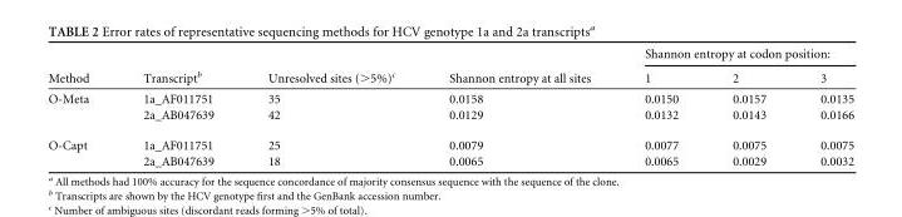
<table><thead><tr><td rowspan="2">Method</td><td rowspan="2">Transcript<sup>b</sup></td><td rowspan="2">Unresolved sites (&gt;5%)<sup>c</sup></td><td rowspan="2">Shannon entropy at all sites</td><td colspan="3">Shannon entropy at codon position:</td></tr><tr><td>1</td><td>2</td><td>3</td></tr></thead><tbody><tr><td rowspan="2">O-Meta</td><td>1a_AF011751</td><td>35</td><td>0.0158</td><td>0.0150</td><td>0.0157</td><td>0.0135</td></tr><tr><td>2a_AB047639</td><td>42</td><td>0.0129</td><td>0.0132</td><td>0.0143</td><td>0.0166</td></tr><tr><td rowspan="2">O-Capt</td><td>1a_AF011751</td><td>25</td><td>0.0079</td><td>0.0077</td><td>0.0075</td><td>0.0075</td></tr><tr><td>2a_AB047639</td><td>18</td><td>0.0065</td><td>0.0065</td><td>0.0029</td><td>0.0032</td></tr></tbody></table>